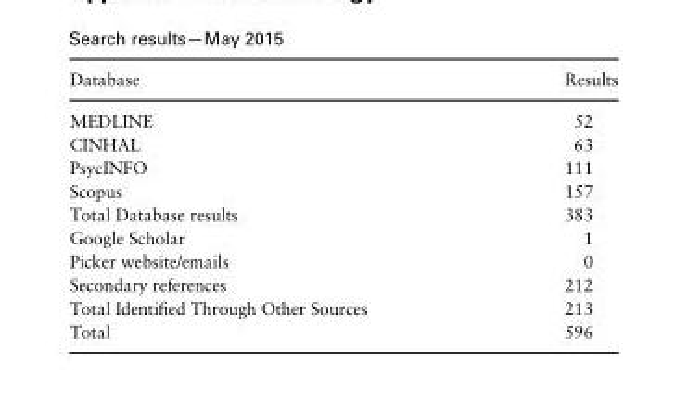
<table><thead><tr><td>Database</td><td>Results</td></tr></thead><tbody><tr><td>MEDLINE</td><td>52</td></tr><tr><td>CINHAL</td><td>63</td></tr><tr><td>PsycINFO</td><td>111</td></tr><tr><td>Scopus</td><td>157</td></tr><tr><td>Total Database results</td><td>383</td></tr><tr><td>Google Scholar</td><td>1</td></tr><tr><td>Picker website/emails</td><td>0</td></tr><tr><td>Secondary references</td><td>212</td></tr><tr><td>Total Identified Through Other Sources</td><td>213</td></tr><tr><td>Total</td><td>596</td></tr></tbody></table>